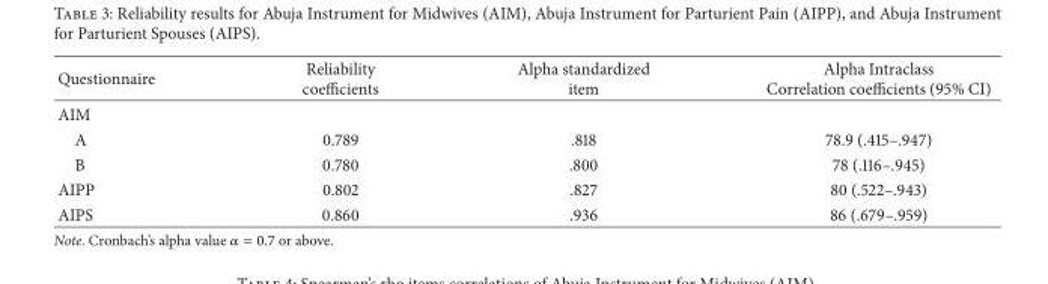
<table><thead><tr><td>Questionnaire</td><td>Reliability coefficients</td><td>Alpha standardized item</td><td>Alpha Intraclass Correlation coefficients (95% CI)</td></tr></thead><tbody><tr><td colspan="4">AIM</td></tr><tr><td>A</td><td>0.789</td><td>.818</td><td>78.9 (.415–.947)</td></tr><tr><td>B</td><td>0.780</td><td>.800</td><td>78 (.116–.945)</td></tr><tr><td>AIPP</td><td>0.802</td><td>.827</td><td>80 (.522–.943)</td></tr><tr><td>AIPS</td><td>0.860</td><td>.936</td><td>86 (.679–.959)</td></tr></tbody></table>